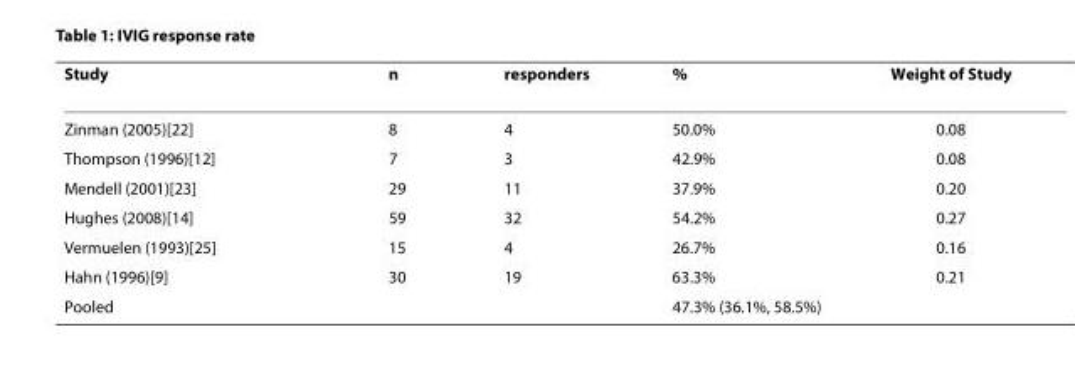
<table><thead><tr><td>Study</td><td>n</td><td>responders</td><td>%</td><td>Weight of Study</td></tr></thead><tbody><tr><td>Zinman (2005)[22]</td><td>8</td><td>4</td><td>50.0%</td><td>0.08</td></tr><tr><td>Thompson (1996)[12]</td><td>7</td><td>3</td><td>42.9%</td><td>0.08</td></tr><tr><td>Mendell (2001)[23]</td><td>29</td><td>11</td><td>37.9%</td><td>0.20</td></tr><tr><td>Hughes (2008)[14]</td><td>59</td><td>32</td><td>54.2%</td><td>0.27</td></tr><tr><td>Vermuelen (1993)[25]</td><td>15</td><td>4</td><td>26.7%</td><td>0.16</td></tr><tr><td>Hahn (1996)[9]</td><td>30</td><td>19</td><td>63.3%</td><td>0.21</td></tr><tr><td>Pooled</td><td></td><td></td><td colspan="2">47.3% (36.1%, 58.5%)</td></tr></tbody></table>